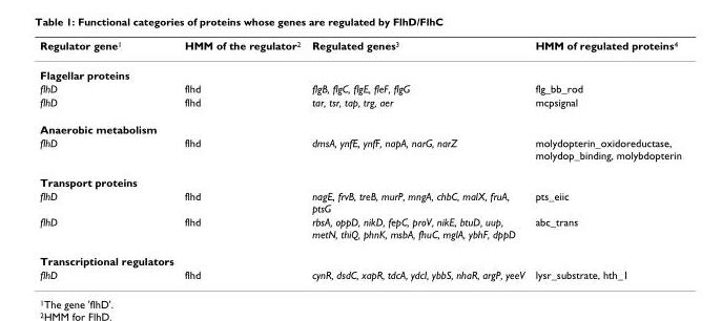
<table><thead><tr><td>Regulator gene<sup>1</sup></td><td>HMM of the regulator<sup>2</sup></td><td>Regulated genes<sup>3</sup></td><td>HMM of regulated proteins<sup>4</sup></td></tr></thead><tbody><tr><td colspan="4">Flagellar proteins</td></tr><tr><td>flhD</td><td>flhd</td><td>flgB, flgC, flgE, fleF, flgG</td><td>flg_bb_rod</td></tr><tr><td>flhD</td><td>flhd</td><td>tar, tsr, tap, trg, aer</td><td>mcpsignal</td></tr><tr><td colspan="4">Anaerobic metabolism</td></tr><tr><td>flhD</td><td>flhd</td><td>dmsA, ynfE, ynfF, napA, narG, narZ</td><td>molydopterin_oxidoreductase, molydop_binding, molybdopterin</td></tr><tr><td colspan="4">Transport proteins</td></tr><tr><td>flhD</td><td>flhd</td><td>nagE, frvB, treB, murP, mngA, chbC, malX, fruA, ptsG</td><td>pts_eiic</td></tr><tr><td>flhD</td><td>flhd</td><td>rbsA, oppD, nikD, fepC, proV, nikE, btuD, uup, metN, thiQ, phnK, msbA, fhuC, mglA, ybhF, dppD</td><td>abc_trans</td></tr><tr><td colspan="4">Transcriptional regulators</td></tr><tr><td>flhD</td><td>flhd</td><td>cynR, dsdC, xapR, tdcA, ydcI, ybbS, nhaR, argP, yeeV</td><td>lysr_substrate, hth_1</td></tr></tbody></table>